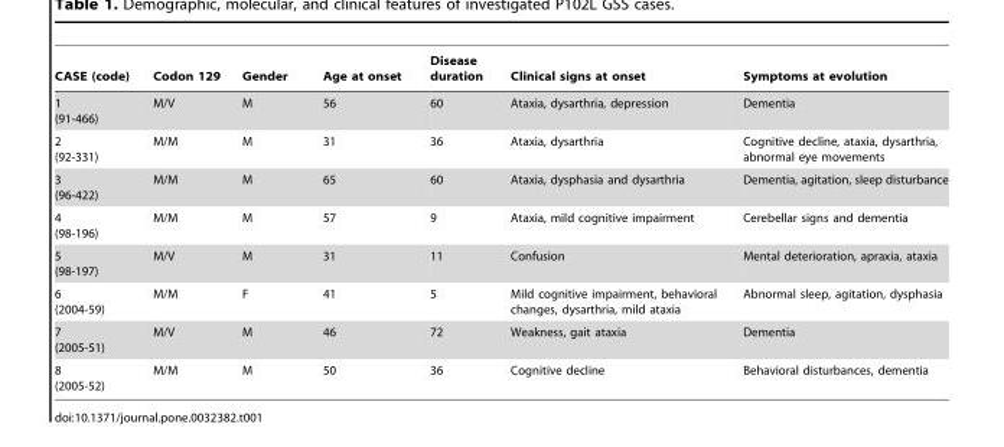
<table><thead><tr><td>CASE (code)</td><td>Codon 129</td><td>Gender</td><td>Age at onset</td><td>Disease duration</td><td>Clinical signs at onset</td><td>Symptoms at evolution</td></tr></thead><tbody><tr><td>1 (91-466)</td><td>M/V</td><td>M</td><td>56</td><td>60</td><td>Ataxia, dysarthria, depression</td><td>Dementia</td></tr><tr><td>2 (92-331)</td><td>M/M</td><td>M</td><td>31</td><td>36</td><td>Ataxia, dysarthria</td><td>Cognitive decline, ataxia, dysarthria, abnormal eye movements</td></tr><tr><td>3 (96-422)</td><td>M/M</td><td>M</td><td>65</td><td>60</td><td>Ataxia, dysphasia and dysarthria</td><td>Dementia, agitation, sleep disturbance</td></tr><tr><td>4 (98-196)</td><td>M/M</td><td>M</td><td>57</td><td>9</td><td>Ataxia, mild cognitive impairment</td><td>Cerebellar signs and dementia</td></tr><tr><td>5 (98-197)</td><td>M/V</td><td>M</td><td>31</td><td>11</td><td>Confusion</td><td>Mental deterioration, apraxia, ataxia</td></tr><tr><td>6 (2004-59)</td><td>M/M</td><td>F</td><td>41</td><td>5</td><td>Mild cognitive impairment, behavioral changes, dysarthria, mild ataxia</td><td>Abnormal sleep, agitation, dysphasia</td></tr><tr><td>7 (2005-51)</td><td>M/V</td><td>M</td><td>46</td><td>72</td><td>Weakness, gait ataxia</td><td>Dementia</td></tr><tr><td>8 (2005-52)</td><td>M/M</td><td>M</td><td>50</td><td>36</td><td>Cognitive decline</td><td>Behavioral disturbances, dementia</td></tr></tbody></table>